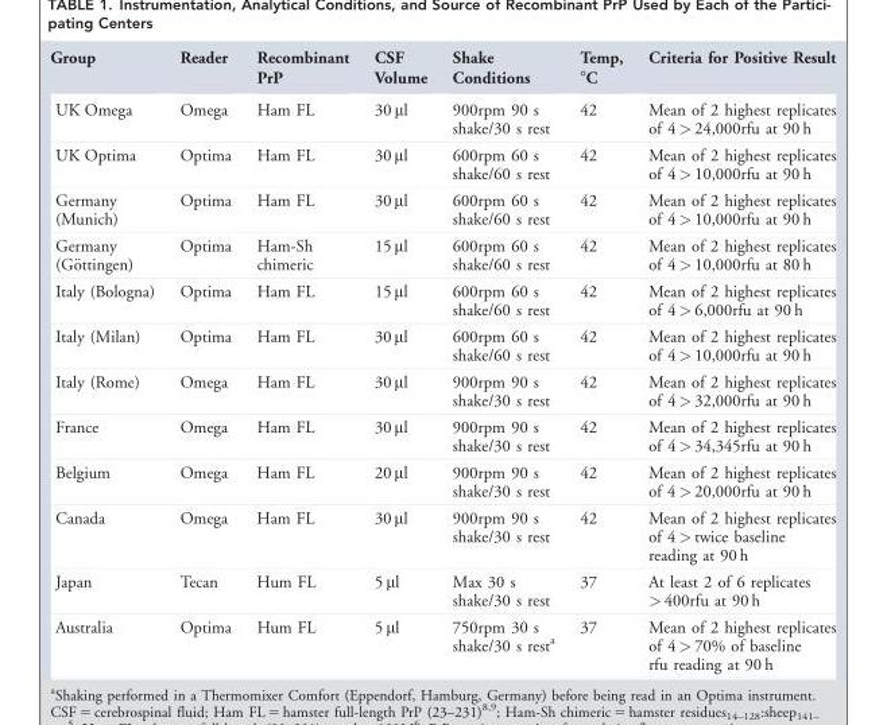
<table><thead><tr><td>Group</td><td>Reader</td><td>Recombinant PrP</td><td>CSF Volume</td><td>Shake Conditions</td><td>Temp, °C</td><td>Criteria for Positive Result</td></tr></thead><tbody><tr><td>UK Omega</td><td>Omega</td><td>Ham FL</td><td>30 µl</td><td>900rpm 90 s shake/30 s rest</td><td>42</td><td>Mean of 2 highest replicates of 4 &gt; 24,000rfu at 90 h</td></tr><tr><td>UK Optima</td><td>Optima</td><td>Ham FL</td><td>30 µl</td><td>600rpm 60 s shake/60 s rest</td><td>42</td><td>Mean of 2 highest replicates of 4 &gt; 10,000rfu at 90 h</td></tr><tr><td>Germany (Munich)</td><td>Optima</td><td>Ham FL</td><td>30 µl</td><td>600rpm 60 s shake/60 s rest</td><td>42</td><td>Mean of 2 highest replicates of 4 &gt; 10,000rfu at 90 h</td></tr><tr><td>Germany (G€ottingen)</td><td>Optima</td><td>Ham-Sh chimeric</td><td>15 µl</td><td>600rpm 60 s shake/60 s rest</td><td>42</td><td>Mean of 2 highest replicates of 4 &gt; 10,000rfu at 80 h</td></tr><tr><td>Italy (Bologna)</td><td>Optima</td><td>Ham FL</td><td>15 µl</td><td>600rpm 60 s shake/60 s rest</td><td>42</td><td>Mean of 2 highest replicates of 4 &gt; 6,000rfu at 90 h</td></tr><tr><td>Italy (Milan)</td><td>Optima</td><td>Ham FL</td><td>30 µl</td><td>600rpm 60 s shake/60 s rest</td><td>42</td><td>Mean of 2 highest replicates of 4 &gt; 10,000rfu at 90 h</td></tr><tr><td>Italy (Rome)</td><td>Omega</td><td>Ham FL</td><td>30 µl</td><td>900rpm 90 s shake/30 s rest</td><td>42</td><td>Mean of 2 highest replicates of 4 &gt; 32,000rfu at 90 h</td></tr><tr><td>France</td><td>Omega</td><td>Ham FL</td><td>30 µl</td><td>900rpm 90 s shake/30 s rest</td><td>42</td><td>Mean of 2 highest replicates of 4 &gt; 34,345rfu at 90 h</td></tr><tr><td>Belgium</td><td>Omega</td><td>Ham FL</td><td>20 µl</td><td>900rpm 90 s shake/30 s rest</td><td>42</td><td>Mean of 2 highest replicates of 4 &gt; 20,000rfu at 90 h</td></tr><tr><td>Canada</td><td>Omega</td><td>Ham FL</td><td>30 µl</td><td>900rpm 90 s shake/30 s rest</td><td>42</td><td>Mean of 2 highest replicates of 4 &gt; twice baseline reading at 90 h</td></tr><tr><td>Japan</td><td>Tecan</td><td>Hum FL</td><td>5 µl</td><td>Max 30 s shake/30 s rest</td><td>37</td><td>At least 2 of 6 replicates &gt; 400rfu at 90 h</td></tr><tr><td>Australia</td><td>Optima</td><td>Hum FL</td><td>5 µl</td><td>750rpm 30 s shake/30 s rest<sup>a</sup></td><td>37</td><td>Mean of 2 highest replicates of 4 &gt; 70% of baseline rfu reading at 90 h</td></tr></tbody></table>